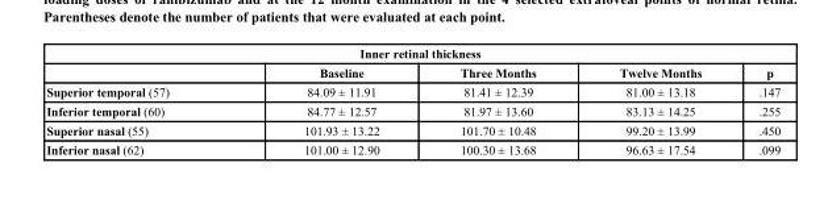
<table><thead><tr><td colspan="5">Inner retinal thickness</td></tr><tr><td></td><td>Baseline</td><td>Three Months</td><td>Twelve Months</td><td>p</td></tr></thead><tbody><tr><td>Superior temporal (57)</td><td>84.09 ± 11.91</td><td>81.41 ± 12.39</td><td>81.00 ± 13.18</td><td>.147</td></tr><tr><td>Inferior temporal (60)</td><td>84.77 ± 12.57</td><td>81.97 ± 13.60</td><td>83.13 ± 14.25</td><td>.255</td></tr><tr><td>Superior nasal (55)</td><td>101.93 ± 13.22</td><td>101.70 ± 10.48</td><td>99.20 ± 13.99</td><td>.450</td></tr><tr><td>Inferior nasal (62)</td><td>101.00 ± 12.90</td><td>100.30 ± 13.68</td><td>96.63 ± 17.54</td><td>.099</td></tr></tbody></table>